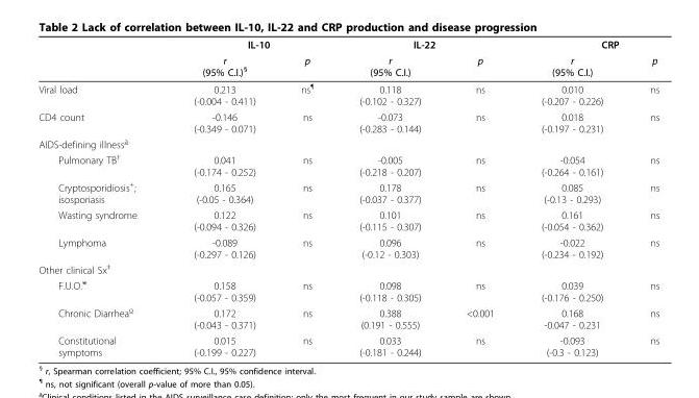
<table><thead><tr><td rowspan="2"></td><td rowspan="2">IL-10 r (95% C.I.)<sup>§</sup></td><td rowspan="2">p</td><td rowspan="2">IL-22 r (95% C.I.)</td><td rowspan="2">p</td><td rowspan="2">CRP r (95% C.I.)</td><td rowspan="2">p</td></tr><tr></tr></thead><tbody><tr><td>Viral load</td><td>0.213 (-0.004 - 0.411)</td><td>ns<sup>¶</sup></td><td>0.118 (-0.102 - 0.327)</td><td>ns</td><td>0.010 (-0.207 - 0.226)</td><td>ns</td></tr><tr><td>CD4 count</td><td>-0.146 (-0.349 - 0.071)</td><td>ns</td><td>-0.073 (-0.283 - 0.144)</td><td>ns</td><td>0.018 (-0.197 - 0.231)</td><td>ns</td></tr><tr><td colspan="7">AIDS-defining illnessa_</td></tr><tr><td>Pulmonary TB<sup>†</sup></td><td>0.041 (-0.174 - 0.252)</td><td>ns</td><td>-0.005 (-0.218 - 0.207)</td><td>ns</td><td>-0.054 (-0.264 - 0.161)</td><td>ns</td></tr><tr><td>Cryptosporidiosis<sup>+</sup>; isosporiasis</td><td>0.165 (-0.05 - 0.364)</td><td>ns</td><td>0.178 (-0.037 - 0.377)</td><td>ns</td><td>0.085 (-0.13 - 0.293)</td><td>ns</td></tr><tr><td>Wasting syndrome</td><td>0.122 (-0.094 - 0.326)</td><td>ns</td><td>0.101 (-0.115 - 0.307)</td><td>ns</td><td>0.161 (-0.054 - 0.362)</td><td>ns</td></tr><tr><td>Lymphoma</td><td>-0.089 (-0.297 - 0.126)</td><td>ns</td><td>0.096 (-0.12 - 0.303)</td><td>ns</td><td>-0.022 (-0.234 - 0.192)</td><td>ns</td></tr><tr><td colspan="7">Other clinical Sx<sup>‡</sup></td></tr><tr><td>F.U.O.<sup>⋇</sup></td><td>0.158 (-0.057 - 0.359)</td><td>ns</td><td>0.098 (-0.118 - 0.305)</td><td>ns</td><td>0.039 (-0.176 - 0.250)</td><td>ns</td></tr><tr><td>Chronic Diarrheao_</td><td>0.172 (-0.043 - 0.371)</td><td>ns</td><td>0.388 (0.191 - 0.555)</td><td>&lt;0.001</td><td>0.168 -0.047 - 0.231</td><td>ns</td></tr><tr><td>Constitutional symptoms</td><td>0.015 (-0.199 - 0.227)</td><td>ns</td><td>0.033 (-0.181 - 0.244)</td><td>ns</td><td>-0.093 (-0.3 - 0.123)</td><td>ns</td></tr></tbody></table>